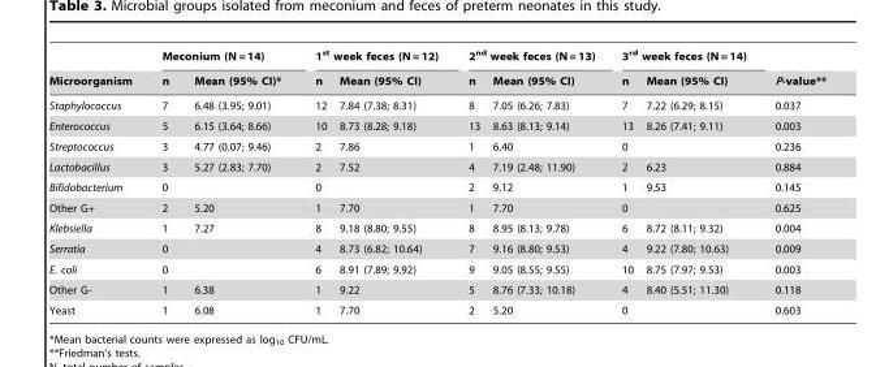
<table><thead><tr><td rowspan="2">Microorganism</td><td colspan="2">Meconium (N = 14)</td><td colspan="2">1<sup>st</sup> week feces (N = 12)</td><td colspan="2">2<sup>nd</sup> week feces (N = 13)</td><td colspan="2">3<sup>rd</sup> week feces (N = 14)</td><td rowspan="2">P-value**</td></tr><tr><td>n</td><td>Mean (95% CI)*</td><td>n</td><td>Mean (95% CI)</td><td>n</td><td>Mean (95% CI)</td><td>n</td><td>Mean (95% CI)</td></tr></thead><tbody><tr><td>Staphylococcus</td><td>7</td><td>6.48 (3.95; 9.01)</td><td>12</td><td>7.84 (7.38; 8.31)</td><td>8</td><td>7.05 (6.26; 7.83)</td><td>7</td><td>7.22 (6.29; 8.15)</td><td>0.037</td></tr><tr><td>Enterococcus</td><td>5</td><td>6.15 (3.64; 8.66)</td><td>10</td><td>8.73 (8.28; 9.18)</td><td>13</td><td>8.63 (8.13; 9.14)</td><td>13</td><td>8.26 (7.41; 9.11)</td><td>0.003</td></tr><tr><td>Streptococcus</td><td>3</td><td>4.77 (0.07; 9.46)</td><td>2</td><td>7.86</td><td>1</td><td>6.40</td><td>0</td><td></td><td>0.236</td></tr><tr><td>Lactobacillus</td><td>3</td><td>5.27 (2.83; 7.70)</td><td>2</td><td>7.52</td><td>4</td><td>7.19 (2.48; 11.90)</td><td>2</td><td>6.23</td><td>0.884</td></tr><tr><td>Bifidobacterium</td><td>0</td><td></td><td>0</td><td></td><td>2</td><td>9.12</td><td>1</td><td>9.53</td><td>0.145</td></tr><tr><td>Other G+</td><td>2</td><td>5.20</td><td>1</td><td>7.70</td><td>1</td><td>7.70</td><td>0</td><td></td><td>0.625</td></tr><tr><td>Klebsiella</td><td>1</td><td>7.27</td><td>8</td><td>9.18 (8.80; 9.55)</td><td>8</td><td>8.95 (8.13; 9.78)</td><td>6</td><td>8.72 (8.11; 9.32)</td><td>0.004</td></tr><tr><td>Serratia</td><td>0</td><td></td><td>4</td><td>8.73 (6.82; 10.64)</td><td>7</td><td>9.16 (8.80; 9.53)</td><td>4</td><td>9.22 (7.80; 10.63)</td><td>0.009</td></tr><tr><td>E. coli</td><td>0</td><td></td><td>6</td><td>8.91 (7.89; 9.92)</td><td>9</td><td>9.05 (8.55; 9.55)</td><td>10</td><td>8.75 (7.97; 9.53)</td><td>0.003</td></tr><tr><td>Other G-</td><td>1</td><td>6.38</td><td>1</td><td>9.22</td><td>5</td><td>8.76 (7.33; 10.18)</td><td>4</td><td>8.40 (5.51; 11.30)</td><td>0.118</td></tr><tr><td>Yeast</td><td>1</td><td>6.08</td><td>1</td><td>7.70</td><td>2</td><td>5.20</td><td>0</td><td></td><td>0.603</td></tr></tbody></table>